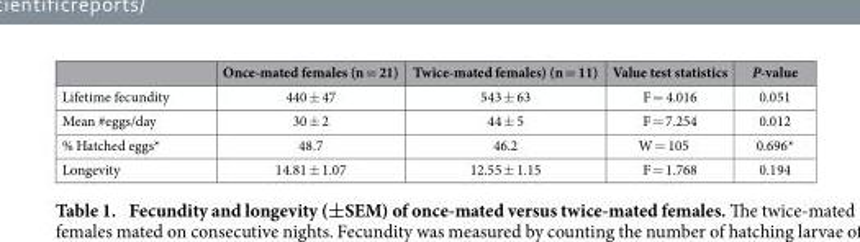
<table><thead><tr><td></td><td>Once-mated females (n = 21)</td><td>Twice-mated females) (n = 11)</td><td>Value test statistics</td><td>P-value</td></tr></thead><tbody><tr><td>Lifetime fecundity</td><td>440 ± 47</td><td>543 ± 63</td><td>F = 4.016</td><td>0.051</td></tr><tr><td>Mean #eggs/day</td><td>30 ± 2</td><td>44 ± 5</td><td>F = 7.254</td><td>0.012</td></tr><tr><td>% Hatched eggs*</td><td>48.7</td><td>46.2</td><td>W = 105</td><td>0.696*</td></tr><tr><td>Longevity</td><td>14.81 ± 1.07</td><td>12.55 ± 1.15</td><td>F = 1.768</td><td>0.194</td></tr></tbody></table>